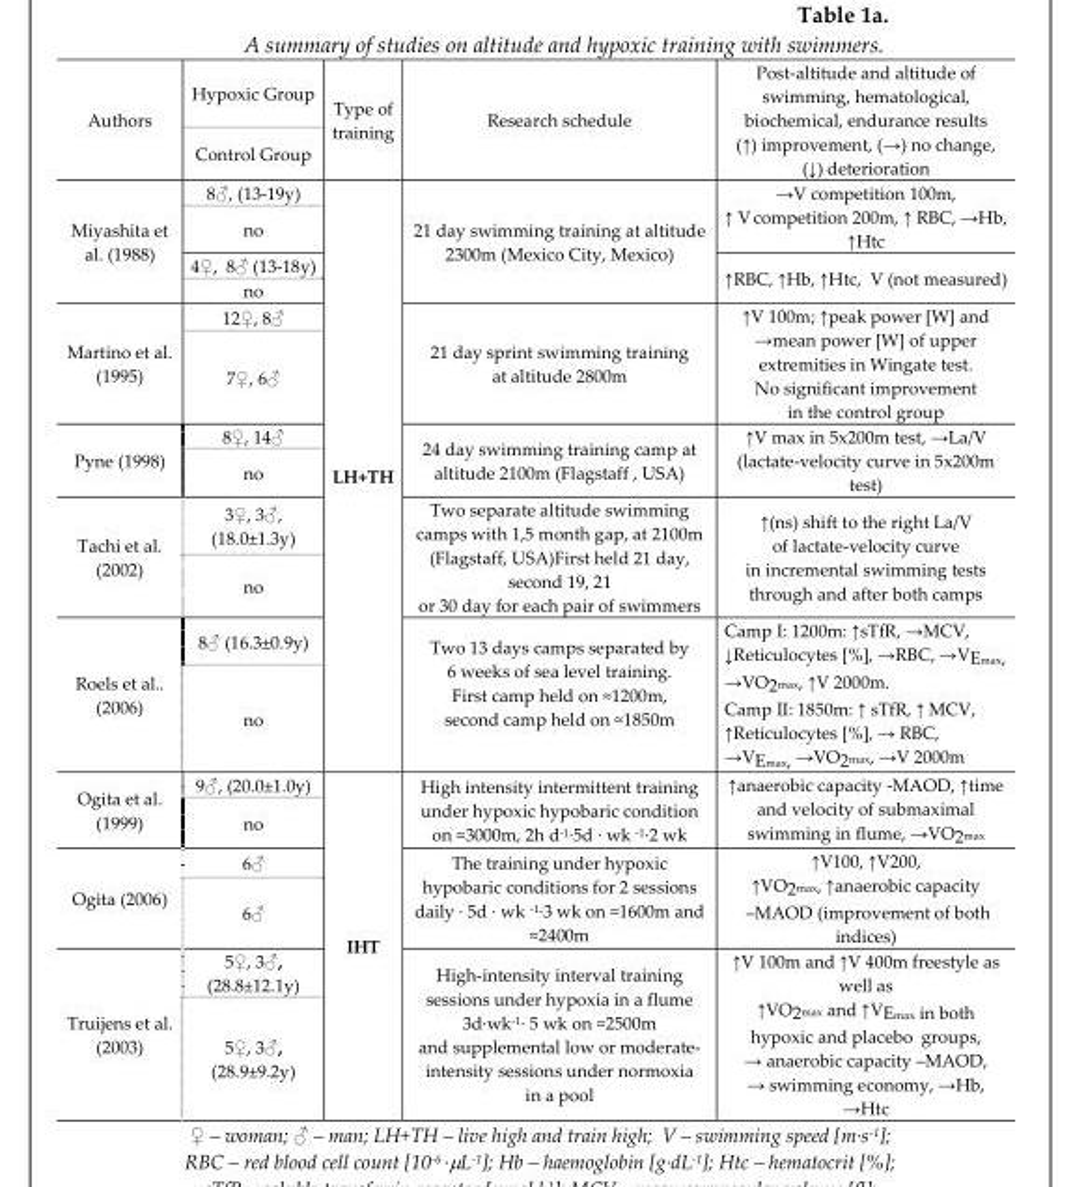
<table><thead><tr><td rowspan="2">Authors</td><td rowspan="2">Hypoxic Group Control Group</td><td rowspan="2">Type of training</td><td rowspan="2">Research schedule</td><td rowspan="2">Post-altitude and altitude of swimming, hematological, biochemical, endurance results (↑) improvement, (→) no change, (↓) deterioration</td></tr><tr></tr></thead><tbody><tr><td rowspan="4">Miyashita et al. (1988)</td><td>8♂, (13-19y)</td><td rowspan="12">LH+TH</td><td rowspan="4">21 day swimming training at altitude 2300m (Mexico City, Mexico)</td><td rowspan="2">→V competition 100m, ↑ V competition 200m, ↑ RBC, →Hb, ↑Htc</td></tr><tr><td>no</td></tr><tr><td>4♀, 8♂ (13-18y)</td><td rowspan="2">↑RBC, ↑Hb, ↑Htc, V (not measured)</td></tr><tr><td>no</td></tr><tr><td rowspan="2">Martino et al. (1995)</td><td>12♀, 8♂</td><td rowspan="2">21 day sprint swimming training at altitude 2800m</td><td rowspan="2">↑V 100m; ↑peak power [W] and →mean power [W] of upper extremities in Wingate test. No significant improvement in the control group</td></tr><tr><td>7♀, 6♂</td></tr><tr><td rowspan="2">Pyne (1998)</td><td>8♀, 14♂</td><td rowspan="2">24 day swimming training camp at altitude 2100m (Flagstaff , USA)</td><td rowspan="2">↑V max in 5x200m test, →La/V (lactate-velocity curve in 5x200m test)</td></tr><tr><td>no</td></tr><tr><td rowspan="2">Tachi et al. (2002)</td><td>3♀, 3♂, (18.0±1.3y)</td><td rowspan="2">Two separate altitude swimming camps with 1,5 month gap, at 2100m (Flagstaff, USA)First held 21 day, second 19, 21 or 30 day for each pair of swimmers</td><td rowspan="2">↑(ns) shift to the right La/V of lactate-velocity curve in incremental swimming tests through and after both camps</td></tr><tr><td>no</td></tr><tr><td rowspan="2">Roels et al.. (2006)</td><td>8♂ (16.3±0.9y)</td><td rowspan="2">Two 13 days camps separated by 6 weeks of sea level training. First camp held on ≈1200m, second camp held on ≈1850m</td><td rowspan="2">Camp I: 1200m: ↑sTfR, →MCV, ↓Reticulocytes [%], →RBC, →V<sub>Emax</sub>, →VO<sub>2max</sub>, ↑V 2000m. Camp II: 1850m: ↑ sTfR, ↑ MCV, ↑Reticulocytes [%], → RBC, →V<sub>Emax</sub>, →VO<sub>2max</sub>, →V 2000m</td></tr><tr><td>no</td></tr><tr><td rowspan="2">Ogita et al. (1999)</td><td>9♂, (20.0±1.0y)</td><td rowspan="6">IHT</td><td rowspan="2">High intensity intermittent training under hypoxic hypobaric condition on ≈3000m, 2h d<sup>-1</sup>·5d · wk <sup>-1</sup>·2 wk</td><td rowspan="2">↑anaerobic capacity -MAOD, ↑time and velocity of submaximal swimming in flume, →VO<sub>2max</sub></td></tr><tr><td>no</td></tr><tr><td rowspan="2">Ogita (2006)</td><td>6♂</td><td rowspan="2">The training under hypoxic hypobaric conditions for 2 sessions daily · 5d · wk <sup>-1</sup>·3 wk on ≈1600m and ≈2400m</td><td rowspan="2">↑V100, ↑V200, ↑VO<sub>2max</sub>, ↑anaerobic capacity –MAOD (improvement of both indices)</td></tr><tr><td>6♂</td></tr><tr><td rowspan="2">Truijens et al. (2003)</td><td>5♀, 3♂, (28.8±12.1y)</td><td rowspan="2">High-intensity interval training sessions under hypoxia in a flume 3d·wk<sup>-1</sup>· 5 wk on ≈2500m and supplemental low or moderate- intensity sessions under normoxia in a pool</td><td rowspan="2">↑V 100m and ↑V 400m freestyle as well as ↑VO<sub>2max</sub> and ↑V<sub>Emax</sub> in both hypoxic and placebo groups, → anaerobic capacity –MAOD, → swimming economy, →Hb, →Htc</td></tr><tr><td>5♀, 3♂, (28.9±9.2y)</td></tr></tbody></table>